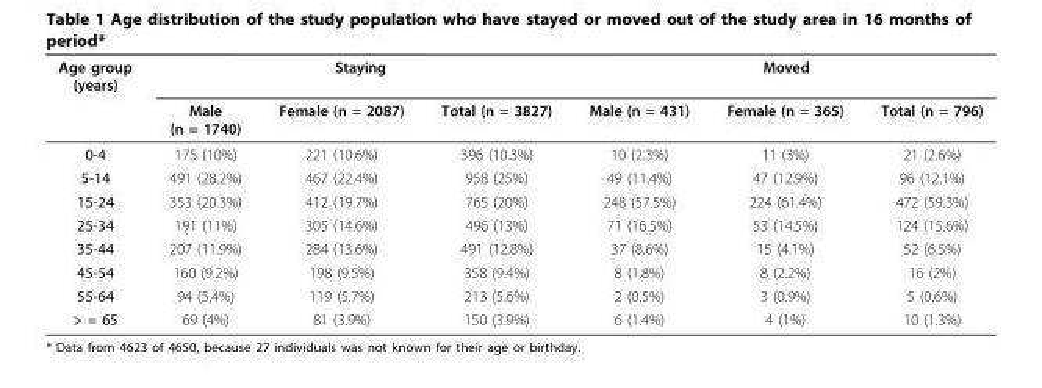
<table><thead><tr><td rowspan="2">Age group (years)</td><td colspan="3">Staying</td><td colspan="3">Moved</td></tr><tr><td>Male (n = 1740)</td><td>Female (n = 2087)</td><td>Total (n = 3827)</td><td>Male (n = 431)</td><td>Female (n = 365)</td><td>Total (n = 796)</td></tr></thead><tbody><tr><td>0-4</td><td>175 (10%)</td><td>221 (10.6%)</td><td>396 (10.3%)</td><td>10 (2.3%)</td><td>11 (3%)</td><td>21 (2.6%)</td></tr><tr><td>5-14</td><td>491 (28.2%)</td><td>467 (22.4%)</td><td>958 (25%)</td><td>49 (11.4%)</td><td>47 (12.9%)</td><td>96 (12.1%)</td></tr><tr><td>15-24</td><td>353 (20.3%)</td><td>412 (19.7%)</td><td>765 (20%)</td><td>248 (57.5%)</td><td>224 (61.4%)</td><td>472 (59.3%)</td></tr><tr><td>25-34</td><td>191 (11%)</td><td>305 (14.6%)</td><td>496 (13%)</td><td>71 (16.5%)</td><td>53 (14.5%)</td><td>124 (15.6%)</td></tr><tr><td>35-44</td><td>207 (11.9%)</td><td>284 (13.6%)</td><td>491 (12.8%)</td><td>37 (8.6%)</td><td>15 (4.1%)</td><td>52 (6.5%)</td></tr><tr><td>45-54</td><td>160 (9.2%)</td><td>198 (9.5%)</td><td>358 (9.4%)</td><td>8 (1.8%)</td><td>8 (2.2%)</td><td>16 (2%)</td></tr><tr><td>55-64</td><td>94 (5,4%)</td><td>119 (5.7%)</td><td>213 (5.6%)</td><td>2 (0.5%)</td><td>3 (0.9%)</td><td>5 (0.6%)</td></tr><tr><td>&gt; = 65</td><td>69 (4%)</td><td>81 (3.9%)</td><td>150 (3.9%)</td><td>6 (1.4%)</td><td>4 (1%)</td><td>10 (1.3%)</td></tr></tbody></table>